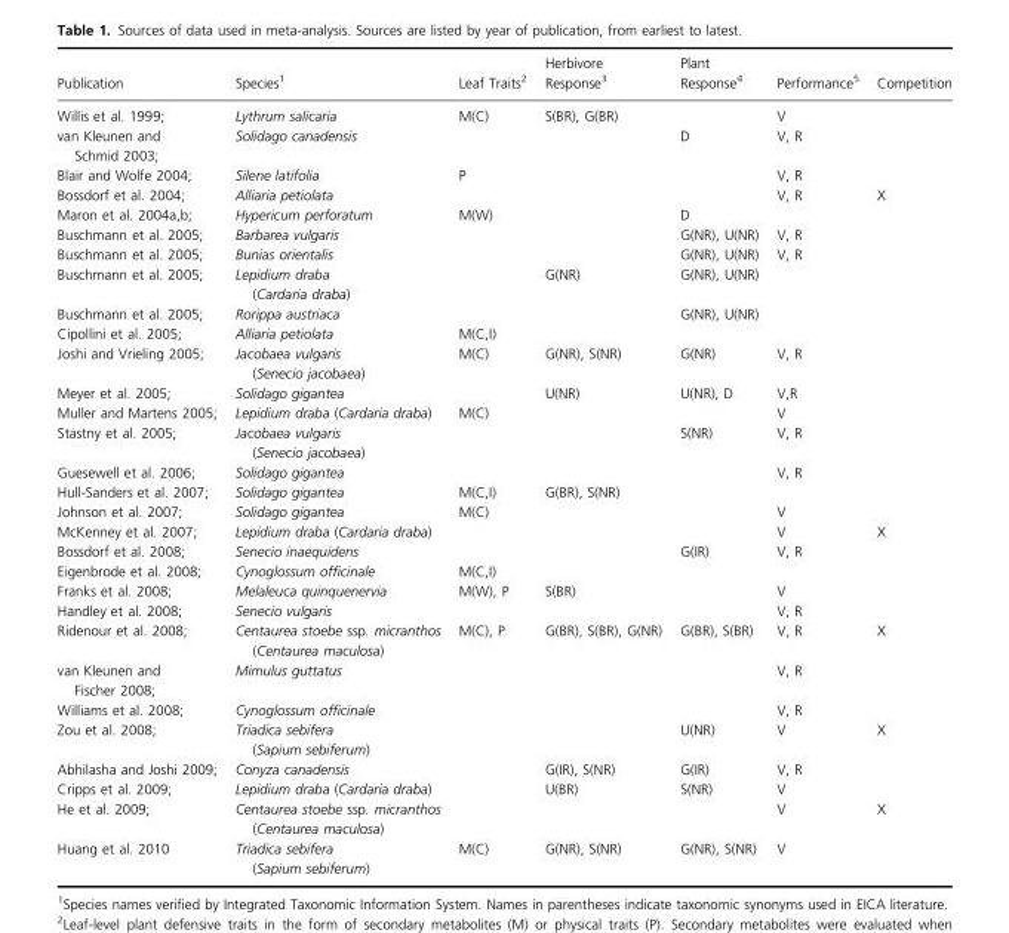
<table><thead><tr><td>Publication</td><td>Species<sup>1</sup></td><td>Leaf Traits<sup>2</sup></td><td>Herbivore Response<sup>3</sup></td><td>Plant Response<sup>4</sup></td><td>Performance<sup>5</sup></td><td>Competition</td></tr></thead><tbody><tr><td>Willis et al. 1999;</td><td>Lythrum salicaria</td><td>M(C)</td><td>S(BR), G(BR)</td><td></td><td>V</td><td></td></tr><tr><td>van Kleunen and Schmid 2003;</td><td>Solidago canadensis</td><td></td><td></td><td>D</td><td>V, R</td><td></td></tr><tr><td>Blair and Wolfe 2004;</td><td>Silene latifolia</td><td>P</td><td></td><td></td><td>V, R</td><td></td></tr><tr><td>Bossdorf et al. 2004;</td><td>Alliaria petiolata</td><td></td><td></td><td></td><td>V, R</td><td>X</td></tr><tr><td>Maron et al. 2004a,b;</td><td>Hypericum perforatum</td><td>M(W)</td><td></td><td>D</td><td></td><td></td></tr><tr><td>Buschmann et al. 2005;</td><td>Barbarea vulgaris</td><td></td><td></td><td>G(NR), U(NR)</td><td>V, R</td><td></td></tr><tr><td>Buschmann et al. 2005;</td><td>Bunias orientalis</td><td></td><td></td><td>G(NR), U(NR)</td><td>V, R</td><td></td></tr><tr><td>Buschmann et al. 2005;</td><td>Lepidium draba (Cardaria draba)</td><td></td><td>G(NR)</td><td>G(NR), U(NR)</td><td></td><td></td></tr><tr><td>Buschmann et al. 2005;</td><td>Rorippa austriaca</td><td></td><td></td><td>G(NR), U(NR)</td><td></td><td></td></tr><tr><td>Cipollini et al. 2005;</td><td>Alliaria petiolata</td><td>M(C,I)</td><td></td><td></td><td></td><td></td></tr><tr><td>Joshi and Vrieling 2005;</td><td>Jacobaea vulgaris (Senecio jacobaea)</td><td>M(C)</td><td>G(NR), S(NR)</td><td>G(NR)</td><td>V, R</td><td></td></tr><tr><td>Meyer et al. 2005;</td><td>Solidago gigantea</td><td></td><td>U(NR)</td><td>U(NR), D</td><td>V,R</td><td></td></tr><tr><td>Muller and Martens 2005;</td><td>Lepidium draba (Cardaria draba)</td><td>M(C)</td><td></td><td></td><td>V</td><td></td></tr><tr><td>Stastny et al. 2005;</td><td>Jacobaea vulgaris (Senecio jacobaea)</td><td></td><td></td><td>S(NR)</td><td>V, R</td><td></td></tr><tr><td>Guesewell et al. 2006;</td><td>Solidago gigantea</td><td></td><td></td><td></td><td>V, R</td><td></td></tr><tr><td>Hull-Sanders et al. 2007;</td><td>Solidago gigantea</td><td>M(C,I)</td><td>G(BR), S(NR)</td><td></td><td></td><td></td></tr><tr><td>Johnson et al. 2007;</td><td>Solidago gigantea</td><td>M(C)</td><td></td><td></td><td>V</td><td></td></tr><tr><td>McKenney et al. 2007;</td><td>Lepidium draba (Cardaria draba)</td><td></td><td></td><td></td><td>V</td><td>X</td></tr><tr><td>Bossdorf et al. 2008;</td><td>Senecio inaequidens</td><td></td><td></td><td>G(IR)</td><td>V, R</td><td></td></tr><tr><td>Eigenbrode et al. 2008;</td><td>Cynoglossum officinale</td><td>M(C,I)</td><td></td><td></td><td></td><td></td></tr><tr><td>Franks et al. 2008;</td><td>Melaleuca quinquenervia</td><td>M(W), P</td><td>S(BR)</td><td></td><td>V</td><td></td></tr><tr><td>Handley et al. 2008;</td><td>Senecio vulgaris</td><td></td><td></td><td></td><td>V, R</td><td></td></tr><tr><td>Ridenour et al. 2008;</td><td>Centaurea stoebe ssp. micranthos (Centaurea maculosa)</td><td>M(C), P</td><td>G(BR), S(BR), G(NR)</td><td>G(BR), S(BR)</td><td>V, R</td><td>X</td></tr><tr><td>van Kleunen and Fischer 2008;</td><td>Mimulus guttatus</td><td></td><td></td><td></td><td>V, R</td><td></td></tr><tr><td>Williams et al. 2008;</td><td>Cynoglossum officinale</td><td></td><td></td><td></td><td>V, R</td><td></td></tr><tr><td>Zou et al. 2008;</td><td>Triadica sebifera (Sapium sebiferum)</td><td></td><td></td><td>U(NR)</td><td>V</td><td>X</td></tr><tr><td>Abhilasha and Joshi 2009;</td><td>Conyza canadensis</td><td></td><td>G(IR), S(NR)</td><td>G(IR)</td><td>V, R</td><td></td></tr><tr><td>Cripps et al. 2009;</td><td>Lepidium draba (Cardaria draba)</td><td></td><td>U(BR)</td><td>S(NR)</td><td>V</td><td></td></tr><tr><td>He et al. 2009;</td><td>Centaurea stoebe ssp. micranthos (Centaurea maculosa)</td><td></td><td></td><td></td><td>V</td><td>X</td></tr><tr><td>Huang et al. 2010</td><td>Triadica sebifera (Sapium sebiferum)</td><td>M(C)</td><td>G(NR), S(NR)</td><td>G(NR), S(NR)</td><td>V</td><td></td></tr></tbody></table>